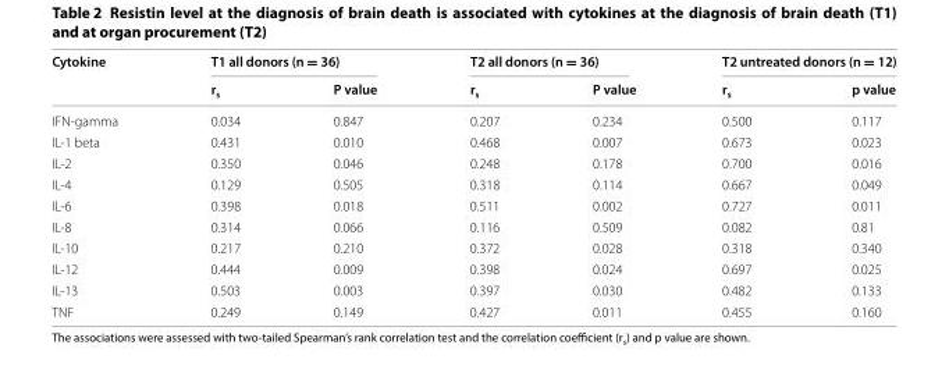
<table><thead><tr><td rowspan="2">Cytokine</td><td colspan="2">T1 all donors (n = 36)</td><td colspan="2">T2 all donors (n = 36)</td><td colspan="2">T2 untreated donors (n = 12)</td></tr><tr><td>r<sub>s</sub></td><td>P value</td><td>r<sub>s</sub></td><td>P value</td><td>r<sub>s</sub></td><td>p value</td></tr></thead><tbody><tr><td>IFN-gamma</td><td>0.034</td><td>0.847</td><td>0.207</td><td>0.234</td><td>0.500</td><td>0.117</td></tr><tr><td>IL-1 beta</td><td>0.431</td><td>0.010</td><td>0.468</td><td>0.007</td><td>0.673</td><td>0.023</td></tr><tr><td>IL-2</td><td>0.350</td><td>0.046</td><td>0.248</td><td>0.178</td><td>0.700</td><td>0.016</td></tr><tr><td>IL-4</td><td>0.129</td><td>0.505</td><td>0.318</td><td>0.114</td><td>0.667</td><td>0.049</td></tr><tr><td>IL-6</td><td>0.398</td><td>0.018</td><td>0.511</td><td>0.002</td><td>0.727</td><td>0.011</td></tr><tr><td>IL-8</td><td>0.314</td><td>0.066</td><td>0.116</td><td>0.509</td><td>0.082</td><td>0.81</td></tr><tr><td>IL-10</td><td>0.217</td><td>0.210</td><td>0.372</td><td>0.028</td><td>0.318</td><td>0.340</td></tr><tr><td>IL-12</td><td>0.444</td><td>0.009</td><td>0.398</td><td>0.024</td><td>0.697</td><td>0.025</td></tr><tr><td>IL-13</td><td>0.503</td><td>0.003</td><td>0.397</td><td>0.030</td><td>0.482</td><td>0.133</td></tr><tr><td>TNF</td><td>0.249</td><td>0.149</td><td>0.427</td><td>0.011</td><td>0.455</td><td>0.160</td></tr></tbody></table>